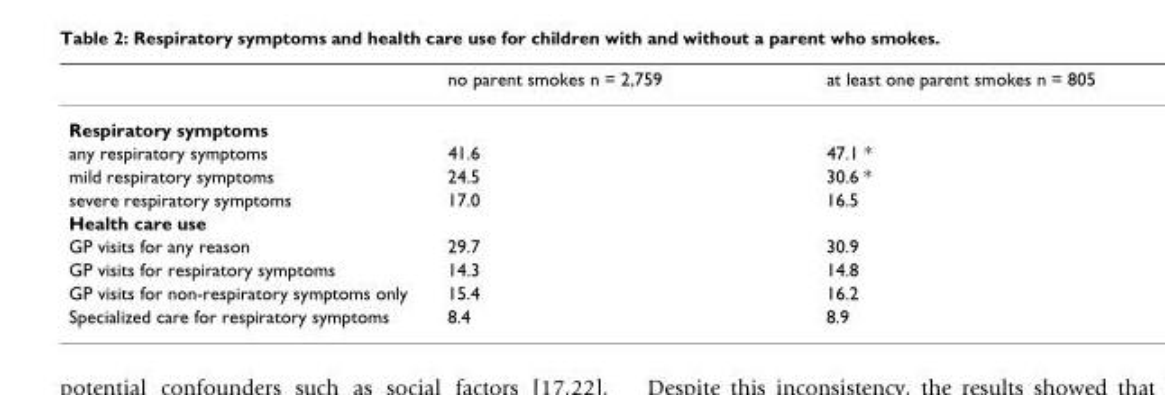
<table><thead><tr><td></td><td>no parent smokes n = 2,759</td><td>at least one parent smokes n = 805</td></tr></thead><tbody><tr><td colspan="3">Respiratory symptoms</td></tr><tr><td>any respiratory symptoms</td><td>41.6</td><td>47.1 *</td></tr><tr><td>mild respiratory symptoms</td><td>24.5</td><td>30.6 *</td></tr><tr><td>severe respiratory symptoms</td><td>17.0</td><td>16.5</td></tr><tr><td colspan="3">Health care use</td></tr><tr><td>GP visits for any reason</td><td>29.7</td><td>30.9</td></tr><tr><td>GP visits for respiratory symptoms</td><td>14.3</td><td>14.8</td></tr><tr><td>GP visits for non-respiratory symptoms only</td><td>15.4</td><td>16.2</td></tr><tr><td>Specialized care for respiratory symptoms</td><td>8.4</td><td>8.9</td></tr></tbody></table>